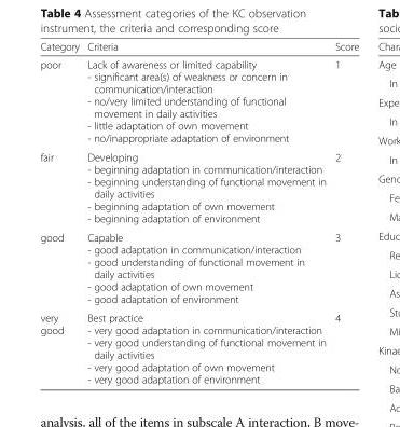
<table><thead><tr><td>Category</td><td>Criteria</td><td>Score</td></tr></thead><tbody><tr><td>poor</td><td>Lack of awareness or limited capability - significant area(s) of weakness or concern in communication/interaction - no/very limited understanding of functional movement in daily activities - little adaptation of own movement - no/inappropriate adaptation of environment</td><td>1</td></tr><tr><td>fair</td><td>Developing - beginning adaptation in communication/interaction - beginning understanding of functional movement in daily activities - beginning adaptation of own movement - beginning adaptation of environment</td><td>2</td></tr><tr><td>good</td><td>Capable - good adaptation in communication/interaction - good understanding of functional movement in daily activities - good adaptation of own movement - good adaptation of environment</td><td>3</td></tr><tr><td>very good</td><td>Best practice - very good adaptation in communication/interaction - very good understanding of functional movement in daily activities - very good adaptation of own movement - very good adaptation of environment</td><td>4</td></tr></tbody></table>